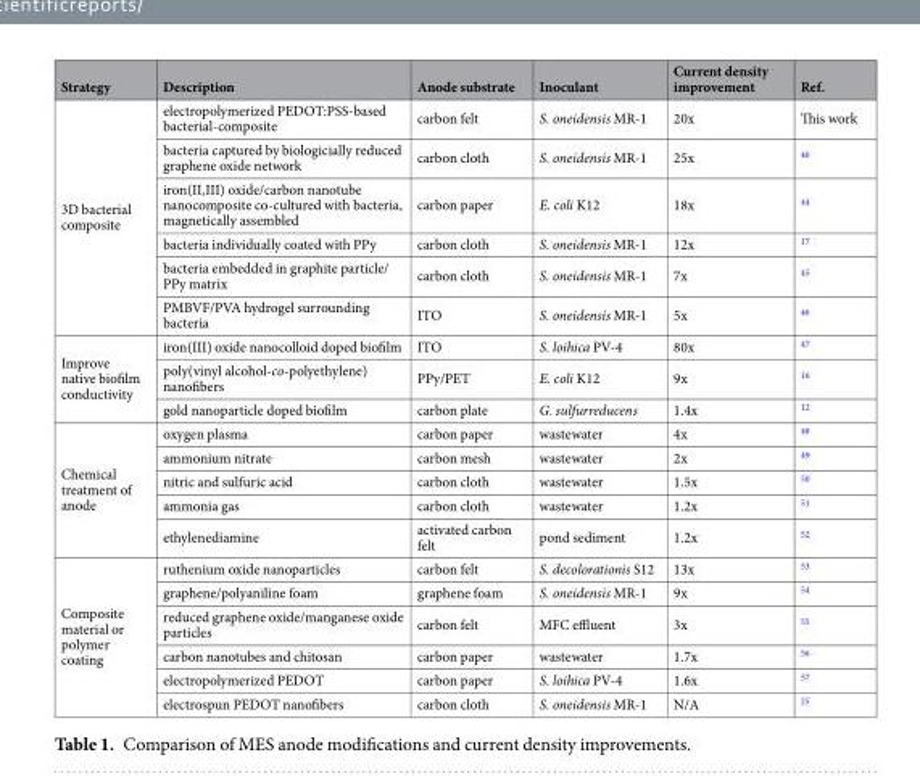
<table><thead><tr><td>Strategy</td><td>Description</td><td>Anode substrate</td><td>Inoculant</td><td>Current density improvement</td><td>Ref.</td></tr></thead><tbody><tr><td rowspan="6">3D bacterial composite</td><td>electropolymerized PEDOT:PSS-based bacterial-composite</td><td>carbon felt</td><td>S. oneidensis MR-1</td><td>20x</td><td>This work</td></tr><tr><td>bacteria captured by biologicially reduced graphene oxide network</td><td>carbon cloth</td><td>S. oneidensis MR-1</td><td>25x</td><td><sup>40</sup></td></tr><tr><td>iron(II,III) oxide/carbon nanotube nanocomposite co-cultured with bacteria, magnetically assembled</td><td>carbon paper</td><td>E. coli K12</td><td>18x</td><td><sup>44</sup></td></tr><tr><td>bacteria individually coated with PPy</td><td>carbon cloth</td><td>S. oneidensis MR-1</td><td>12x</td><td><sup>17</sup></td></tr><tr><td>bacteria embedded in graphite particle/ PPy matrix</td><td>carbon cloth</td><td>S. oneidensis MR-1</td><td>7x</td><td><sup>45</sup></td></tr><tr><td>PMBVF/PVA hydrogel surrounding bacteria</td><td>ITO</td><td>S. oneidensis MR-1</td><td>5x</td><td><sup>46</sup></td></tr><tr><td rowspan="3">Improve native biofilm conductivity</td><td>iron(III) oxide nanocolloid doped biofilm</td><td>ITO</td><td>S. loihica PV-4</td><td>80x</td><td><sup>47</sup></td></tr><tr><td>poly(vinyl alcohol-co-polyethylene) nanofibers</td><td>PPy/PET</td><td>E. coli K12</td><td>9x</td><td><sup>16</sup></td></tr><tr><td>gold nanoparticle doped biofilm</td><td>carbon plate</td><td>G. sulfurreducens</td><td>1.4x</td><td><sup>12</sup></td></tr><tr><td rowspan="5">Chemical treatment of anode</td><td>oxygen plasma</td><td>carbon paper</td><td>wastewater</td><td>4x</td><td><sup>48</sup></td></tr><tr><td>ammonium nitrate</td><td>carbon mesh</td><td>wastewater</td><td>2x</td><td><sup>49</sup></td></tr><tr><td>nitric and sulfuric acid</td><td>carbon cloth</td><td>wastewater</td><td>1.5x</td><td><sup>50</sup></td></tr><tr><td>ammonia gas</td><td>carbon cloth</td><td>wastewater</td><td>1.2x</td><td><sup>51</sup></td></tr><tr><td>ethylenediamine</td><td>activated carbon felt</td><td>pond sediment</td><td>1.2x</td><td><sup>52</sup></td></tr><tr><td rowspan="6">Composite material or polymer coating</td><td>ruthenium oxide nanoparticles</td><td>carbon felt</td><td>S. decolorationis S12</td><td>13x</td><td><sup>53</sup></td></tr><tr><td>graphene/polyaniline foam</td><td>graphene foam</td><td>S. oneidensis MR-1</td><td>9x</td><td><sup>54</sup></td></tr><tr><td>reduced graphene oxide/manganese oxide particles</td><td>carbon felt</td><td>MFC effluent</td><td>3x</td><td><sup>55</sup></td></tr><tr><td>carbon nanotubes and chitosan</td><td>carbon paper</td><td>wastewater</td><td>1.7x</td><td><sup>56</sup></td></tr><tr><td>electropolymerized PEDOT</td><td>carbon paper</td><td>S. loihica PV-4</td><td>1.6x</td><td><sup>57</sup></td></tr><tr><td>electrospun PEDOT nanofibers</td><td>carbon cloth</td><td>S. oneidensis MR-1</td><td>N/A</td><td><sup>25</sup></td></tr></tbody></table>